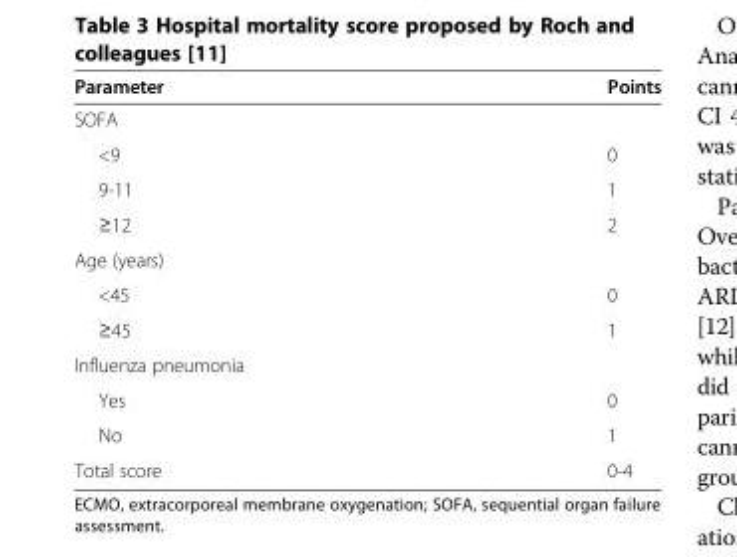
<table><thead><tr><td>Parameter</td><td>Points</td></tr></thead><tbody><tr><td colspan="2">SOFA</td></tr><tr><td>&lt;9</td><td>0</td></tr><tr><td>9-11</td><td>1</td></tr><tr><td>≥12</td><td>2</td></tr><tr><td colspan="2">Age (years)</td></tr><tr><td>&lt;45</td><td>0</td></tr><tr><td>≥45</td><td>1</td></tr><tr><td colspan="2">Influenza pneumonia</td></tr><tr><td>Yes</td><td>0</td></tr><tr><td>No</td><td>1</td></tr><tr><td>Total score</td><td>0-4</td></tr></tbody></table>